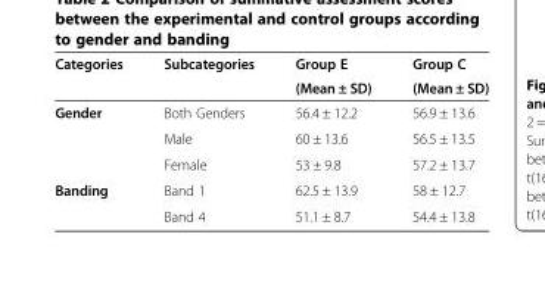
<table><thead><tr><td rowspan="2">Categories</td><td rowspan="2">Subcategories</td><td rowspan="2">Group E (Mean ± SD)</td><td rowspan="2">Group C (Mean ± SD)</td></tr><tr></tr></thead><tbody><tr><td rowspan="3">Gender</td><td>Both Genders</td><td>56.4 ± 12.2</td><td>56.9 ± 13.6</td></tr><tr><td>Male</td><td>60 ± 13.6</td><td>56.5 ± 13.5</td></tr><tr><td>Female</td><td>53 ± 9.8</td><td>57.2 ± 13.7</td></tr><tr><td rowspan="2">Banding</td><td>Band 1</td><td>62.5 ± 13.9</td><td>58 ± 12.7</td></tr><tr><td>Band 4</td><td>51.1 ± 8.7</td><td>54.4 ± 13.8</td></tr></tbody></table>